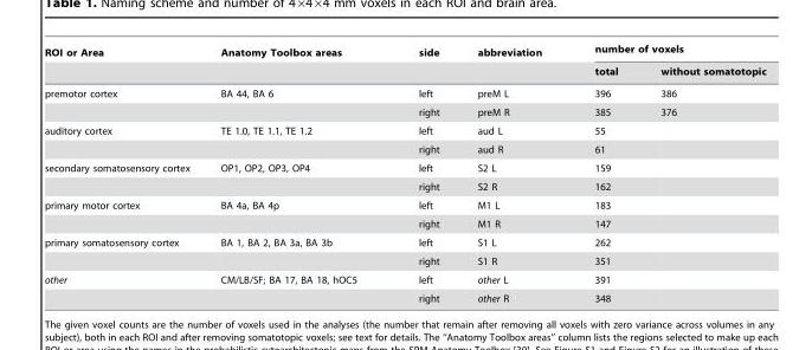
<table><thead><tr><td rowspan="2">ROI or Area</td><td rowspan="2">Anatomy Toolbox areas</td><td rowspan="2">side</td><td rowspan="2">abbreviation</td><td colspan="2">number of voxels</td></tr><tr><td>total</td><td>without somatotopic</td></tr></thead><tbody><tr><td rowspan="2">premotor cortex</td><td>BA 44, BA 6</td><td>left</td><td>preM L</td><td>396</td><td>386</td></tr><tr><td></td><td>right</td><td>preM R</td><td>385</td><td>376</td></tr><tr><td rowspan="2">auditory cortex</td><td>TE 1.0, TE 1.1, TE 1.2</td><td>left</td><td>aud L</td><td>55</td><td></td></tr><tr><td></td><td>right</td><td>aud R</td><td>61</td><td></td></tr><tr><td rowspan="2">secondary somatosensory cortex</td><td>OP1, OP2, OP3, OP4</td><td>left</td><td>S2 L</td><td>159</td><td></td></tr><tr><td></td><td>right</td><td>S2 R</td><td>162</td><td></td></tr><tr><td rowspan="2">primary motor cortex</td><td>BA 4a, BA 4p</td><td>left</td><td>M1 L</td><td>183</td><td></td></tr><tr><td></td><td>right</td><td>M1 R</td><td>147</td><td></td></tr><tr><td rowspan="2">primary somatosensory cortex</td><td>BA 1, BA 2, BA 3a, BA 3b</td><td>left</td><td>S1 L</td><td>262</td><td></td></tr><tr><td></td><td>right</td><td>S1 R</td><td>351</td><td></td></tr><tr><td rowspan="2">other</td><td>CM/LB/SF; BA 17, BA 18, hOC5</td><td>left</td><td>other L</td><td>391</td><td></td></tr><tr><td></td><td>right</td><td>other R</td><td>348</td><td></td></tr></tbody></table>